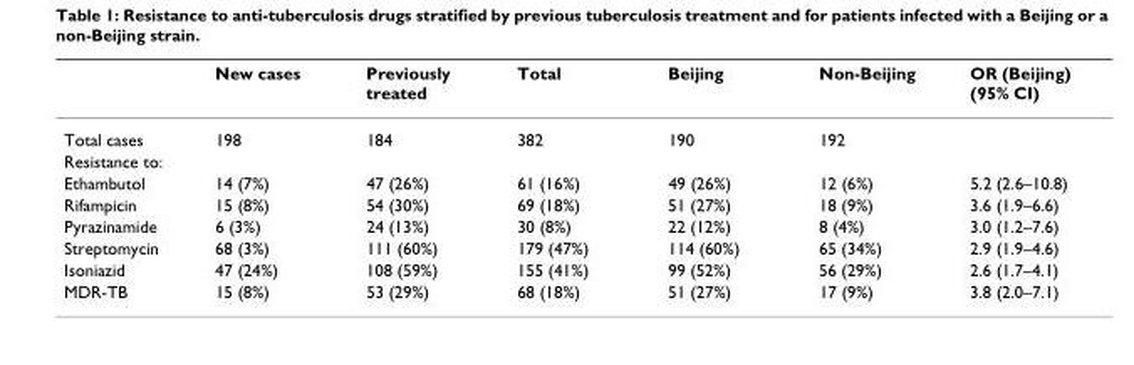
<table><thead><tr><td></td><td>New cases</td><td>Previously treated</td><td>Total</td><td>Beijing</td><td>Non-Beijing</td><td>OR (Beijing) (95% CI)</td></tr></thead><tbody><tr><td>Total cases</td><td>198</td><td>184</td><td>382</td><td>190</td><td>192</td><td></td></tr><tr><td colspan="7">Resistance to:</td></tr><tr><td>Ethambutol</td><td>14 (7%)</td><td>47 (26%)</td><td>61 (16%)</td><td>49 (26%)</td><td>12 (6%)</td><td>5.2 (2.6–10.8)</td></tr><tr><td>Rifampicin</td><td>15 (8%)</td><td>54 (30%)</td><td>69 (18%)</td><td>51 (27%)</td><td>18 (9%)</td><td>3.6 (1.9–6.6)</td></tr><tr><td>Pyrazinamide</td><td>6 (3%)</td><td>24 (13%)</td><td>30 (8%)</td><td>22 (12%)</td><td>8 (4%)</td><td>3.0 (1.2–7.6)</td></tr><tr><td>Streptomycin</td><td>68 (3%)</td><td>111 (60%)</td><td>179 (47%)</td><td>114 (60%)</td><td>65 (34%)</td><td>2.9 (1.9–4.6)</td></tr><tr><td>Isoniazid</td><td>47 (24%)</td><td>108 (59%)</td><td>155 (41%)</td><td>99 (52%)</td><td>56 (29%)</td><td>2.6 (1.7–4.1)</td></tr><tr><td>MDR-TB</td><td>15 (8%)</td><td>53 (29%)</td><td>68 (18%)</td><td>51 (27%)</td><td>17 (9%)</td><td>3.8 (2.0–7.1)</td></tr></tbody></table>